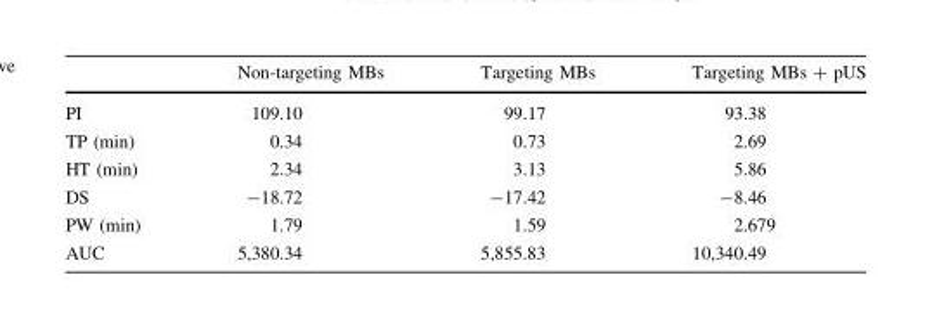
<table><thead><tr><td></td><td>Non-targeting MBs</td><td>Targeting MBs</td><td>Targeting MBs + pUS</td></tr></thead><tbody><tr><td>PI</td><td>109.10</td><td>99.17</td><td>93.38</td></tr><tr><td>TP (min)</td><td>0.34</td><td>0.73</td><td>2.69</td></tr><tr><td>HT (min)</td><td>2.34</td><td>3.13</td><td>5.86</td></tr><tr><td>DS</td><td>-18.72</td><td>-17.42</td><td>-8.46</td></tr><tr><td>PW (min)</td><td>1.79</td><td>1.59</td><td>2.679</td></tr><tr><td>AUC</td><td>5,380.34</td><td>5,855.83</td><td>10,340.49</td></tr></tbody></table>